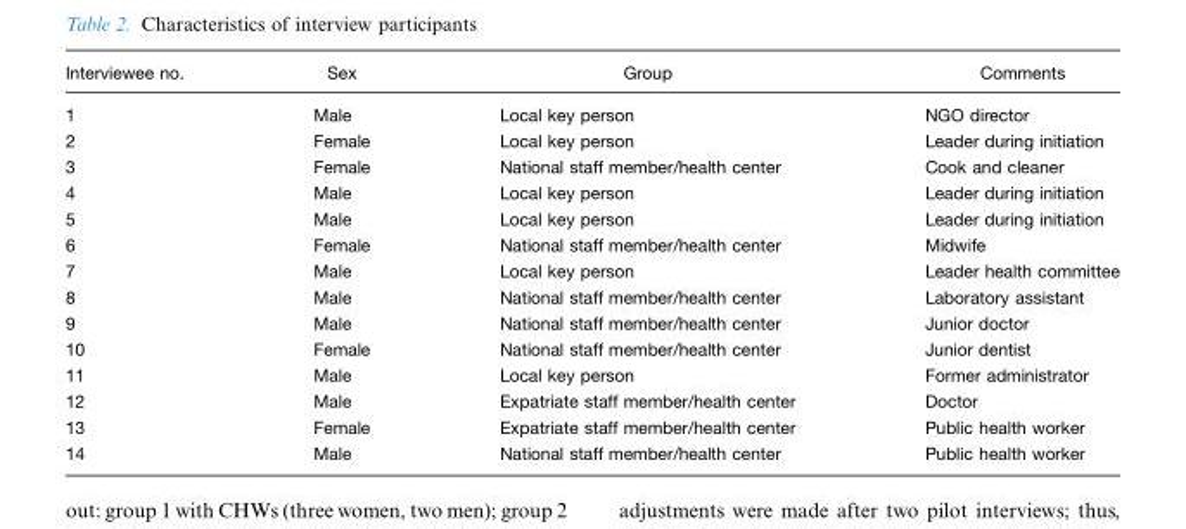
<table><thead><tr><td>Interviewee no.</td><td>Sex</td><td>Group</td><td>Comments</td></tr></thead><tbody><tr><td>1</td><td>Male</td><td>Local key person</td><td>NGO director</td></tr><tr><td>2</td><td>Female</td><td>Local key person</td><td>Leader during initiation</td></tr><tr><td>3</td><td>Female</td><td>National staff member/health center</td><td>Cook and cleaner</td></tr><tr><td>4</td><td>Male</td><td>Local key person</td><td>Leader during initiation</td></tr><tr><td>5</td><td>Male</td><td>Local key person</td><td>Leader during initiation</td></tr><tr><td>6</td><td>Female</td><td>National staff member/health center</td><td>Midwife</td></tr><tr><td>7</td><td>Male</td><td>Local key person</td><td>Leader health committee</td></tr><tr><td>8</td><td>Male</td><td>National staff member/health center</td><td>Laboratory assistant</td></tr><tr><td>9</td><td>Male</td><td>National staff member/health center</td><td>Junior doctor</td></tr><tr><td>10</td><td>Female</td><td>National staff member/health center</td><td>Junior dentist</td></tr><tr><td>11</td><td>Male</td><td>Local key person</td><td>Former administrator</td></tr><tr><td>12</td><td>Male</td><td>Expatriate staff member/health center</td><td>Doctor</td></tr><tr><td>13</td><td>Female</td><td>Expatriate staff member/health center</td><td>Public health worker</td></tr><tr><td>14</td><td>Male</td><td>National staff member/health center</td><td>Public health worker</td></tr></tbody></table>